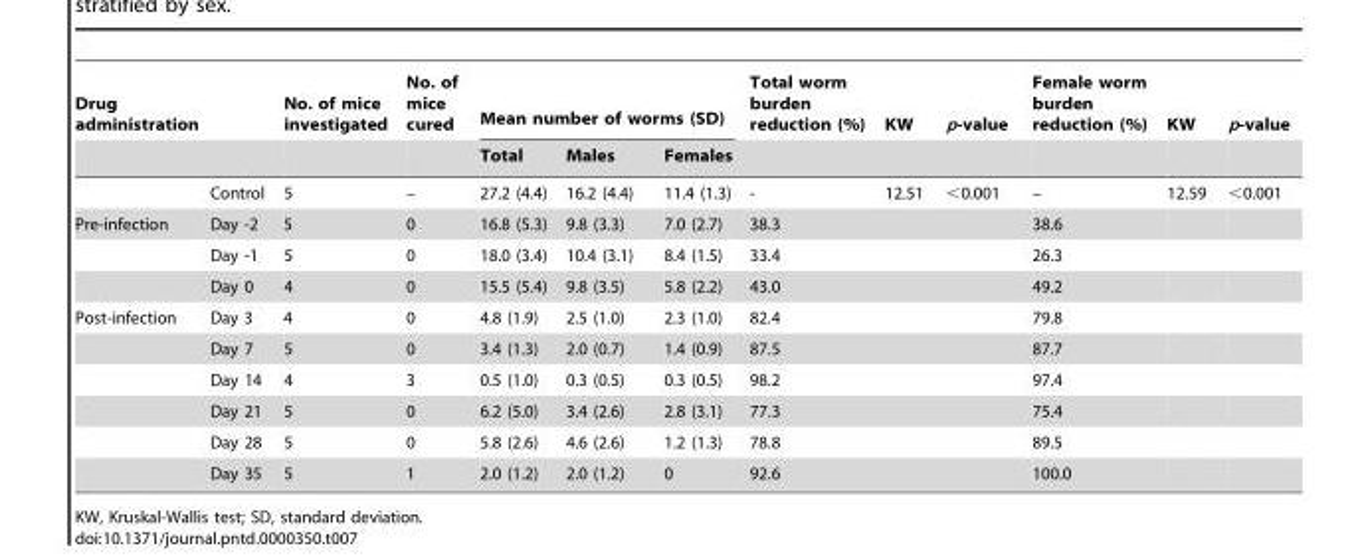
<table><thead><tr><td rowspan="2">Drug administration</td><td rowspan="2"></td><td rowspan="2">No. of mice investigated</td><td rowspan="2">No. of mice cured</td><td colspan="3">Mean number of worms (SD)</td><td rowspan="2">Total worm burden reduction (%)</td><td rowspan="2">KW</td><td rowspan="2">p-value</td><td rowspan="2">Female worm burden reduction (%)</td><td rowspan="2">KW</td><td rowspan="2">p-value</td></tr><tr><td>Total</td><td>Males</td><td>Females</td></tr></thead><tbody><tr><td></td><td>Control</td><td>5</td><td>–</td><td>27.2 (4.4)</td><td>16.2 (4.4)</td><td>11.4 (1.3)</td><td>-</td><td>12.51</td><td>&lt;0.001</td><td>–</td><td>12.59</td><td>&lt;0.001</td></tr><tr><td rowspan="3">Pre-infection</td><td>Day -2</td><td>5</td><td>0</td><td>16.8 (5.3)</td><td>9.8 (3.3)</td><td>7.0 (2.7)</td><td>38.3</td><td></td><td></td><td>38.6</td><td></td><td></td></tr><tr><td>Day -1</td><td>5</td><td>0</td><td>18.0 (3.4)</td><td>10.4 (3.1)</td><td>8.4 (1.5)</td><td>33.4</td><td></td><td></td><td>26.3</td><td></td><td></td></tr><tr><td>Day 0</td><td>4</td><td>0</td><td>15.5 (5.4)</td><td>9.8 (3.5)</td><td>5.8 (2.2)</td><td>43.0</td><td></td><td></td><td>49.2</td><td></td><td></td></tr><tr><td rowspan="6">Post-infection</td><td>Day 3</td><td>4</td><td>0</td><td>4.8 (1.9)</td><td>2.5 (1.0)</td><td>2.3 (1.0)</td><td>82.4</td><td></td><td></td><td>79.8</td><td></td><td></td></tr><tr><td>Day 7</td><td>5</td><td>0</td><td>3.4 (1.3)</td><td>2.0 (0.7)</td><td>1.4 (0.9)</td><td>87.5</td><td></td><td></td><td>87.7</td><td></td><td></td></tr><tr><td>Day 14</td><td>4</td><td>3</td><td>0.5 (1.0)</td><td>0.3 (0.5)</td><td>0.3 (0.5)</td><td>98.2</td><td></td><td></td><td>97.4</td><td></td><td></td></tr><tr><td>Day 21</td><td>5</td><td>0</td><td>6.2 (5.0)</td><td>3.4 (2.6)</td><td>2.8 (3.1)</td><td>77.3</td><td></td><td></td><td>75.4</td><td></td><td></td></tr><tr><td>Day 28</td><td>5</td><td>0</td><td>5.8 (2.6)</td><td>4.6 (2.6)</td><td>1.2 (1.3)</td><td>78.8</td><td></td><td></td><td>89.5</td><td></td><td></td></tr><tr><td>Day 35</td><td>5</td><td>1</td><td>2.0 (1.2)</td><td>2.0 (1.2)</td><td>0</td><td>92.6</td><td></td><td></td><td>100.0</td><td></td><td></td></tr></tbody></table>